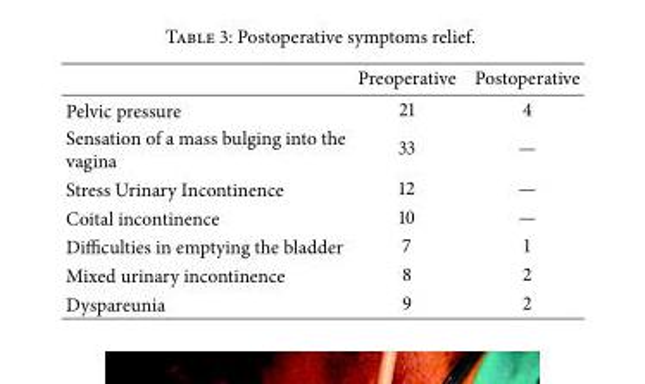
<table><thead><tr><td></td><td>Preoperative</td><td>Postoperative</td></tr></thead><tbody><tr><td>Pelvic pressure</td><td>21</td><td>4</td></tr><tr><td>Sensation of a mass bulging into the vagina</td><td>33</td><td>—</td></tr><tr><td>Stress Urinary Incontinence</td><td>12</td><td>—</td></tr><tr><td>Coital incontinence</td><td>10</td><td>—</td></tr><tr><td>Difficulties in emptying the bladder</td><td>7</td><td>1</td></tr><tr><td>Mixed urinary incontinence</td><td>8</td><td>2</td></tr><tr><td>Dyspareunia</td><td>9</td><td>2</td></tr></tbody></table>